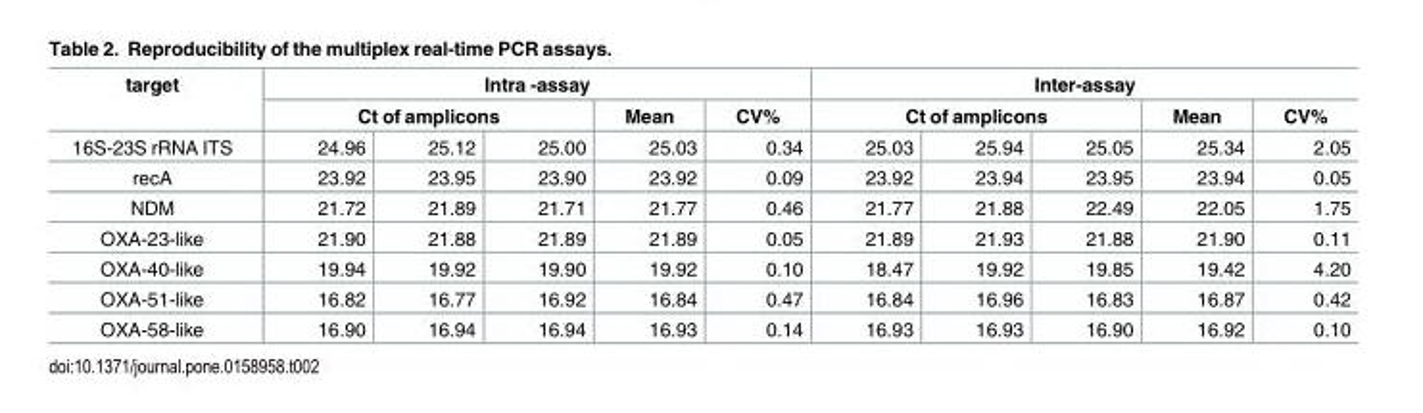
<table><thead><tr><td rowspan="3">target 16S-23S rRNA ITS</td><td colspan="5">Intra -assay</td><td colspan="5">Inter-assay</td></tr><tr><td colspan="3">Ct of amplicons</td><td rowspan="2">Mean 25.03</td><td rowspan="2">CV% 0.34</td><td colspan="3">Ct of amplicons</td><td rowspan="2">Mean 25.34</td><td rowspan="2">CV% 2.05</td></tr><tr><td>24.96</td><td>25.12</td><td>25.00</td><td>25.03</td><td>25.94</td><td>25.05</td></tr></thead><tbody><tr><td>recA</td><td>23.92</td><td>23.95</td><td>23.90</td><td>23.92</td><td>0.09</td><td>23.92</td><td>23.94</td><td>23.95</td><td>23.94</td><td>0.05</td></tr><tr><td>NDM</td><td>21.72</td><td>21.89</td><td>21.71</td><td>21.77</td><td>0.46</td><td>21.77</td><td>21.88</td><td>22.49</td><td>22.05</td><td>1.75</td></tr><tr><td>OXA-23-like</td><td>21.90</td><td>21.88</td><td>21.89</td><td>21.89</td><td>0.05</td><td>21.89</td><td>21.93</td><td>21.88</td><td>21.90</td><td>0.11</td></tr><tr><td>OXA-40-like</td><td>19.94</td><td>19.92</td><td>19.90</td><td>19.92</td><td>0.10</td><td>18.47</td><td>19.92</td><td>19.85</td><td>19.42</td><td>4.20</td></tr><tr><td>OXA-51-like</td><td>16.82</td><td>16.77</td><td>16.92</td><td>16.84</td><td>0.47</td><td>16.84</td><td>16.96</td><td>16.83</td><td>16.87</td><td>0.42</td></tr><tr><td>OXA-58-like</td><td>16.90</td><td>16.94</td><td>16.94</td><td>16.93</td><td>0.14</td><td>16.93</td><td>16.93</td><td>16.90</td><td>16.92</td><td>0.10</td></tr></tbody></table>